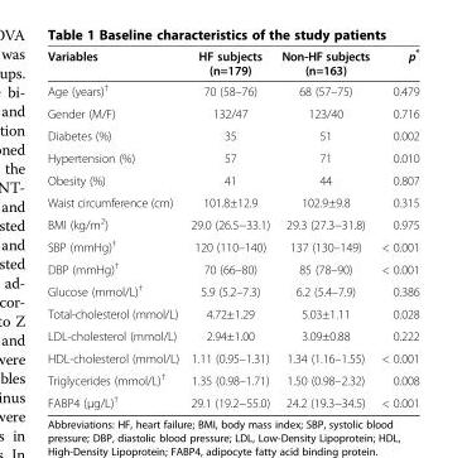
<table><thead><tr><td>Variables</td><td>HF subjects (n=179)</td><td>Non-HF subjects (n=163)</td><td>p*</td></tr></thead><tbody><tr><td>Age (years)<sup>†</sup></td><td>70 (58–76)</td><td>68 (57–75)</td><td>0.479</td></tr><tr><td>Gender (M/F)</td><td>132/47</td><td>123/40</td><td>0.716</td></tr><tr><td>Diabetes (%)</td><td>35</td><td>51</td><td>0.002</td></tr><tr><td>Hypertension (%)</td><td>57</td><td>71</td><td>0.010</td></tr><tr><td>Obesity (%)</td><td>41</td><td>44</td><td>0.807</td></tr><tr><td>Waist circumference (cm)</td><td>101.8±12.9</td><td>102.9±9.8</td><td>0.315</td></tr><tr><td>BMI (kg/m<sup>2</sup>)</td><td>29.0 (26.5−33.1)</td><td>29.3 (27.3−31.8)</td><td>0.975</td></tr><tr><td>SBP (mmHg)<sup>†</sup></td><td>120 (110–140)</td><td>137 (130–149)</td><td>&lt; 0.001</td></tr><tr><td>DBP (mmHg)<sup>†</sup></td><td>70 (66–80)</td><td>85 (78–90)</td><td>&lt; 0.001</td></tr><tr><td>Glucose (mmol/L)<sup>†</sup></td><td>5.9 (5.2–7.3)</td><td>6.2 (5.4–7.9)</td><td>0.386</td></tr><tr><td>Total-cholesterol (mmol/L)</td><td>4.72±1.29</td><td>5.03±1.11</td><td>0.028</td></tr><tr><td>LDL-cholesterol (mmol/L)</td><td>2.94±1.00</td><td>3.09±0.88</td><td>0.222</td></tr><tr><td>HDL-cholesterol (mmol/L)</td><td>1.11 (0.95–1.31)</td><td>1.34 (1.16–1.55)</td><td>&lt; 0.001</td></tr><tr><td>Triglycerides (mmol/L)<sup>†</sup></td><td>1.35 (0.98–1.71)</td><td>1.50 (0.98–2.32)</td><td>0.008</td></tr><tr><td>FABP4 (μg/L)<sup>†</sup></td><td>29.1 (19.2−55.0)</td><td>24.2 (19.3−34.5)</td><td>&lt; 0.001</td></tr></tbody></table>